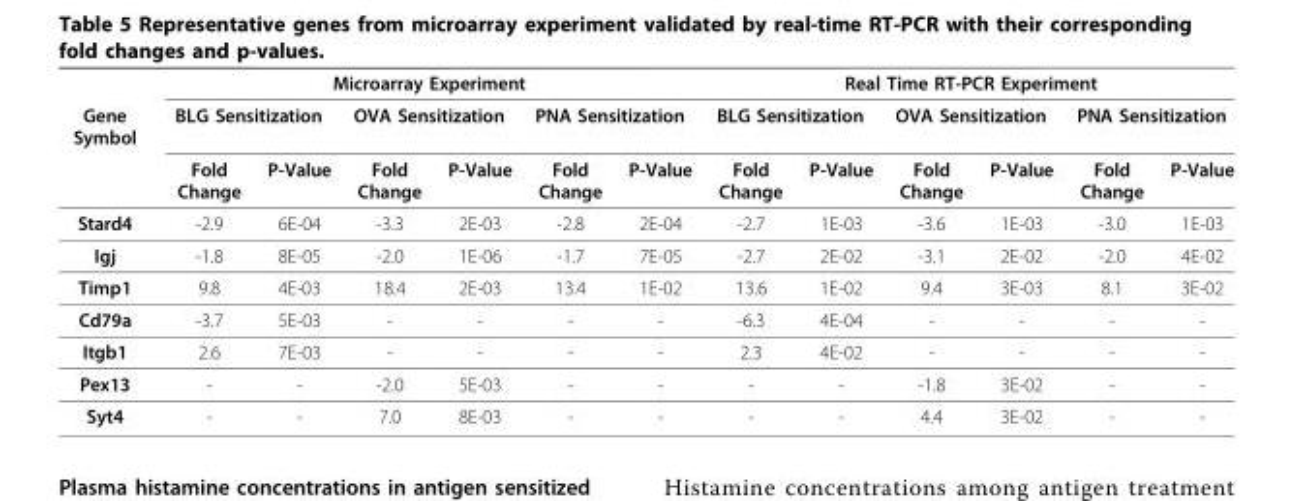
<table><thead><tr><td rowspan="3">Gene Symbol</td><td colspan="6">Microarray Experiment</td><td colspan="6">Real Time RT-PCR Experiment</td></tr><tr><td colspan="2">BLG Sensitization</td><td colspan="2">OVA Sensitization</td><td colspan="2">PNA Sensitization</td><td colspan="2">BLG Sensitization</td><td colspan="2">OVA Sensitization</td><td colspan="2">PNA Sensitization</td></tr><tr><td>Fold Change</td><td>P-Value</td><td>Fold Change</td><td>P-Value</td><td>Fold Change</td><td>P-Value</td><td>Fold Change</td><td>P-Value</td><td>Fold Change</td><td>P-Value</td><td>Fold Change</td><td>P-Value</td></tr></thead><tbody><tr><td>Stard4</td><td>-2.9</td><td>6E-04</td><td>-3.3</td><td>2E-03</td><td>-2.8</td><td>2E-04</td><td>-2.7</td><td>1E-03</td><td>-3.6</td><td>1E-03</td><td>-3.0</td><td>1E-03</td></tr><tr><td>Igj</td><td>-1.8</td><td>8E-05</td><td>-2.0</td><td>1E-06</td><td>-1.7</td><td>7E-05</td><td>-2.7</td><td>2E-02</td><td>-3.1</td><td>2E-02</td><td>-2.0</td><td>4E-02</td></tr><tr><td>Timp1</td><td>9.8</td><td>4E-03</td><td>18.4</td><td>2E-03</td><td>13.4</td><td>1E-02</td><td>13.6</td><td>1E-02</td><td>9.4</td><td>3E-03</td><td>8.1</td><td>3E-02</td></tr><tr><td>Cd79a</td><td>-3.7</td><td>5E-03</td><td>-</td><td>-</td><td>-</td><td>-</td><td>-6.3</td><td>4E-04</td><td>-</td><td>-</td><td>-</td><td>-</td></tr><tr><td>Itgb1</td><td>2.6</td><td>7E-03</td><td>-</td><td>-</td><td>-</td><td>-</td><td>2.3</td><td>4E-02</td><td>-</td><td>-</td><td>-</td><td>-</td></tr><tr><td>Pex13</td><td>-</td><td>-</td><td>-2.0</td><td>5E-03</td><td>-</td><td>-</td><td>-</td><td>-</td><td>-1.8</td><td>3E-02</td><td>-</td><td>-</td></tr><tr><td>Syt4</td><td>-</td><td>-</td><td>7.0</td><td>8E-03</td><td>-</td><td>-</td><td>-</td><td>-</td><td>4.4</td><td>3E-02</td><td>-</td><td>-</td></tr></tbody></table>